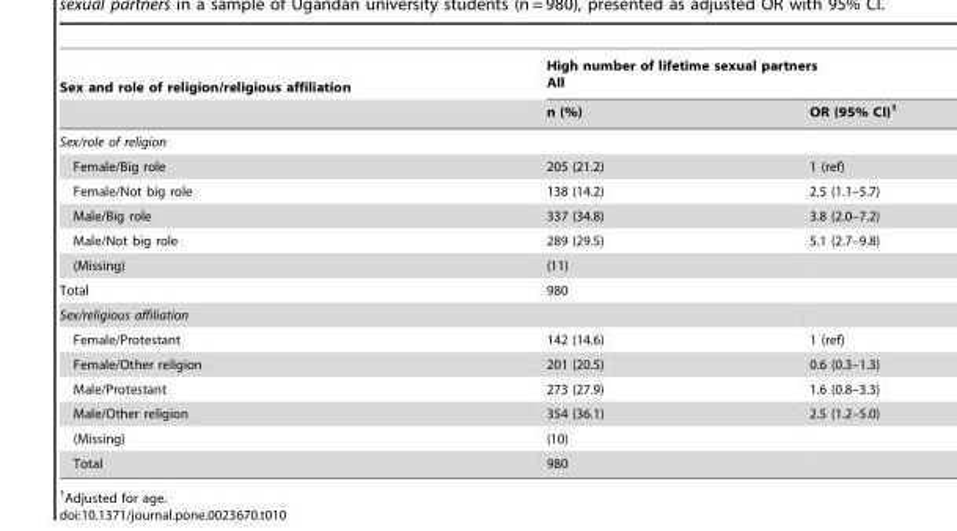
<table><thead><tr><td rowspan="2">Sex and role of religion/religious affiliation</td><td colspan="2">High number of lifetime sexual partners All</td></tr><tr><td>n (%)</td><td>OR (95% CI)<sup>1</sup></td></tr></thead><tbody><tr><td colspan="3">Sex/role of religion</td></tr><tr><td>Female/Big role</td><td>205 (21.2)</td><td>1 (ref)</td></tr><tr><td>Female/Not big role</td><td>138 (14.2)</td><td>2.5 (1.1–5.7)</td></tr><tr><td>Male/Big role</td><td>337 (34.8)</td><td>3.8 (2.0–7.2)</td></tr><tr><td>Male/Not big role</td><td>289 (29.5)</td><td>5.1 (2.7–9.8)</td></tr><tr><td>(Missing)</td><td>(11)</td><td></td></tr><tr><td>Total</td><td>980</td><td></td></tr><tr><td colspan="3">Sex/religious affiliation</td></tr><tr><td>Female/Protestant</td><td>142 (14.6)</td><td>1 (ref)</td></tr><tr><td>Female/Other religion</td><td>201 (20.5)</td><td>0.6 (0.3–1.3)</td></tr><tr><td>Male/Protestant</td><td>273 (27.9)</td><td>1.6 (0.8–3.3)</td></tr><tr><td>Male/Other religion</td><td>354 (36.1)</td><td>2.5 (1.2–5.0)</td></tr><tr><td>(Missing)</td><td>(10)</td><td></td></tr><tr><td>Total</td><td>980</td><td></td></tr></tbody></table>